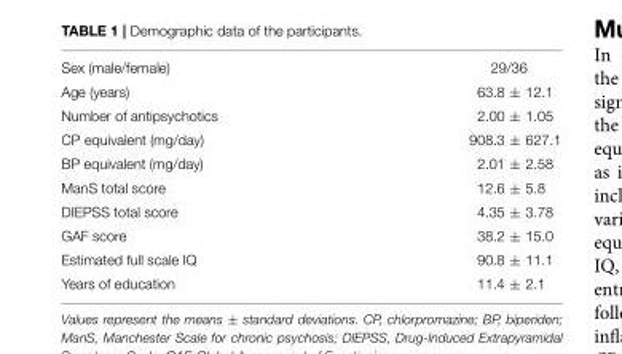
<table><tbody><tr><td>Sex (male/female)</td><td>29/36</td></tr><tr><td>Age (years)</td><td>63.8 ± 12.1</td></tr><tr><td>Number of antipsychotics</td><td>2.00 ± 1.05</td></tr><tr><td>CP equivalent (mg/day)</td><td>908.3 ± 627.1</td></tr><tr><td>BP equivalent (mg/day)</td><td>2.01 ± 2.58</td></tr><tr><td>ManS total score</td><td>12.6 ± 5.8</td></tr><tr><td>DIEPSS total score</td><td>4.35 ± 3.78</td></tr><tr><td>GAF score</td><td>38.2 ± 15.0</td></tr><tr><td>Estimated full scale IQ</td><td>90.8 ± 11.1</td></tr><tr><td>Years of education</td><td>11.4 ± 2.1</td></tr></tbody></table>